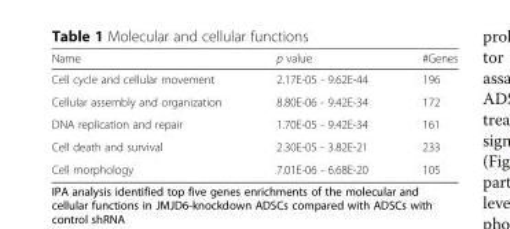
<table><thead><tr><td>Name</td><td>p value</td><td>#Genes</td></tr></thead><tbody><tr><td>Cell cycle and cellular movement</td><td>2.17E-05 - 9.62E-44</td><td>196</td></tr><tr><td>Cellular assembly and organization</td><td>8.80E-06 - 9.42E-34</td><td>172</td></tr><tr><td>DNA replication and repair</td><td>1.70E-05 - 9.42E-34</td><td>161</td></tr><tr><td>Cell death and survival</td><td>2.30E-05 - 3.82E-21</td><td>233</td></tr><tr><td>Cell morphology</td><td>7.01E-06 - 6.68E-20</td><td>105</td></tr></tbody></table>